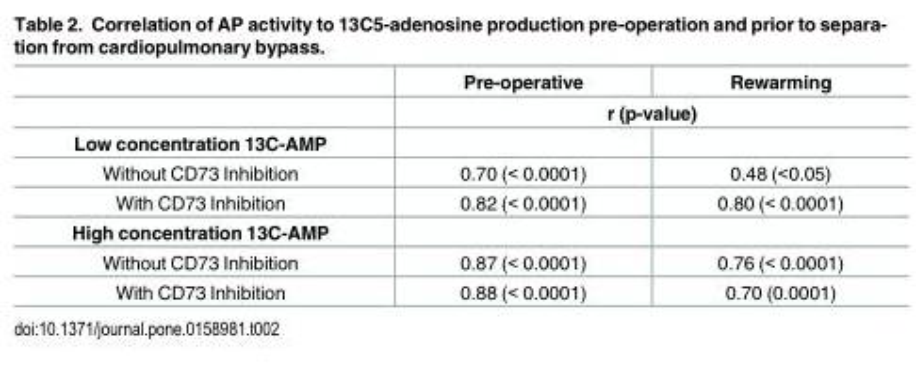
<table><thead><tr><td rowspan="2"></td><td>Pre-operative</td><td>Rewarming</td></tr><tr><td colspan="2">r (p-value)</td></tr></thead><tbody><tr><td colspan="3">Low concentration 13C-AMP</td></tr><tr><td>Without CD73 Inhibition</td><td>0.70 (&lt; 0.0001)</td><td>0.48 (&lt;0.05)</td></tr><tr><td>With CD73 Inhibition</td><td>0.82 (&lt; 0.0001)</td><td>0.80 (&lt; 0.0001)</td></tr><tr><td colspan="3">High concentration 13C-AMP</td></tr><tr><td>Without CD73 Inhibition</td><td>0.87 (&lt; 0.0001)</td><td>0.76 (&lt; 0.0001)</td></tr><tr><td>With CD73 Inhibition</td><td>0.88 (&lt; 0.0001)</td><td>0.70 (0.0001)</td></tr></tbody></table>